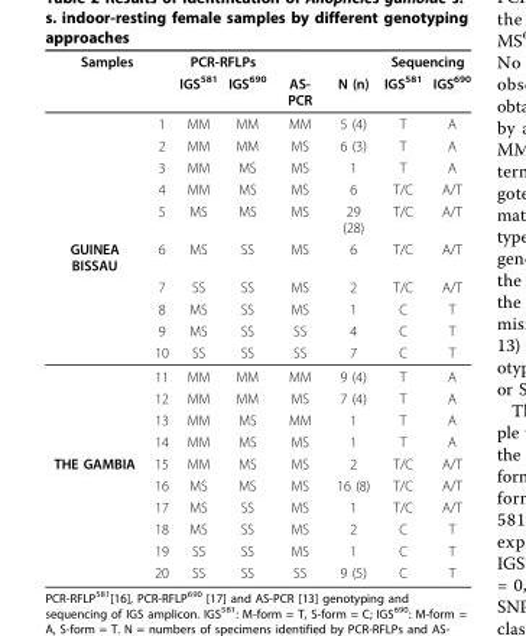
<table><thead><tr><td colspan="2">Samples</td><td colspan="2">PCR-RFLPs</td><td rowspan="2">AS- PCR</td><td rowspan="2">N (n)</td><td colspan="2">Sequencing</td></tr><tr><td></td><td></td><td>IGS<sup>581</sup></td><td>IGS<sup>690</sup></td><td>IGS<sup>581</sup></td><td>IGS<sup>690</sup></td></tr></thead><tbody><tr><td></td><td>1</td><td>MM</td><td>MM</td><td>MM</td><td>5 (4)</td><td>T</td><td>A</td></tr><tr><td></td><td>2</td><td>MM</td><td>MM</td><td>MS</td><td>6 (3)</td><td>T</td><td>A</td></tr><tr><td></td><td>3</td><td>MM</td><td>MS</td><td>MS</td><td>1</td><td>T</td><td>A</td></tr><tr><td></td><td>4</td><td>MM</td><td>MS</td><td>MS</td><td>6</td><td>T/C</td><td>A/T</td></tr><tr><td></td><td>5</td><td>MS</td><td>MS</td><td>MS</td><td>29 (28)</td><td>T/C</td><td>A/T</td></tr><tr><td rowspan="9">GUINEA BISSAU</td><td>6</td><td>MS</td><td>SS</td><td>MS</td><td>6</td><td>T/C</td><td>A/T</td></tr><tr><td>7</td><td>SS</td><td>SS</td><td>MS</td><td>2</td><td>T/C</td><td>A/T</td></tr><tr><td>8</td><td>MS</td><td>SS</td><td>MS</td><td>1</td><td>C</td><td>T</td></tr><tr><td>9</td><td>MS</td><td>SS</td><td>SS</td><td>4</td><td>C</td><td>T</td></tr><tr><td>10</td><td>SS</td><td>SS</td><td>SS</td><td>7</td><td>C</td><td>T</td></tr><tr><td>11</td><td>MM</td><td>MM</td><td>MM</td><td>9 (4)</td><td>T</td><td>A</td></tr><tr><td>12</td><td>MM</td><td>MM</td><td>MS</td><td>7 (4)</td><td>T</td><td>A</td></tr><tr><td>13</td><td>MM</td><td>MS</td><td>MM</td><td>1</td><td>T</td><td>A</td></tr><tr><td>14</td><td>MM</td><td>MS</td><td>MS</td><td>1</td><td>T</td><td>A</td></tr><tr><td rowspan="6">THE GAMBIA</td><td>15</td><td>MM</td><td>MS</td><td>MS</td><td>2</td><td>T/C</td><td>A/T</td></tr><tr><td>16</td><td>MS</td><td>MS</td><td>MS</td><td>16 (8)</td><td>T/C</td><td>A/T</td></tr><tr><td>17</td><td>MS</td><td>SS</td><td>MS</td><td>1</td><td>T/C</td><td>A/T</td></tr><tr><td>18</td><td>MS</td><td>SS</td><td>MS</td><td>2</td><td>C</td><td>T</td></tr><tr><td>19</td><td>SS</td><td>SS</td><td>MS</td><td>1</td><td>C</td><td>T</td></tr><tr><td>20</td><td>SS</td><td>SS</td><td>SS</td><td>9 (5)</td><td>C</td><td>T</td></tr></tbody></table>